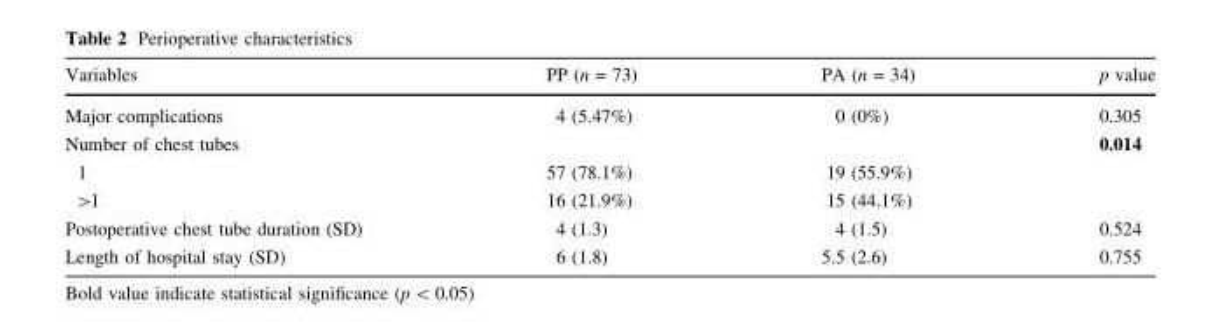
<table><thead><tr><td>Variables</td><td>PP (n = 73)</td><td>PA (n = 34)</td><td>p value</td></tr></thead><tbody><tr><td>Major complications</td><td>4 (5.47%)</td><td>0 (0%)</td><td>0.305</td></tr><tr><td>Number of chest tubes</td><td></td><td></td><td>0.014</td></tr><tr><td>1</td><td>57 (78.1%)</td><td>19 (55.9%)</td><td></td></tr><tr><td>&gt;1</td><td>16 (21.9%)</td><td>15 (44.1%)</td><td></td></tr><tr><td>Postoperative chest tube duration (SD)</td><td>4 (1.3)</td><td>4 (1.5)</td><td>0.524</td></tr><tr><td>Length of hospital stay (SD)</td><td>6 (1.8)</td><td>5.5 (2.6)</td><td>0.755</td></tr></tbody></table>